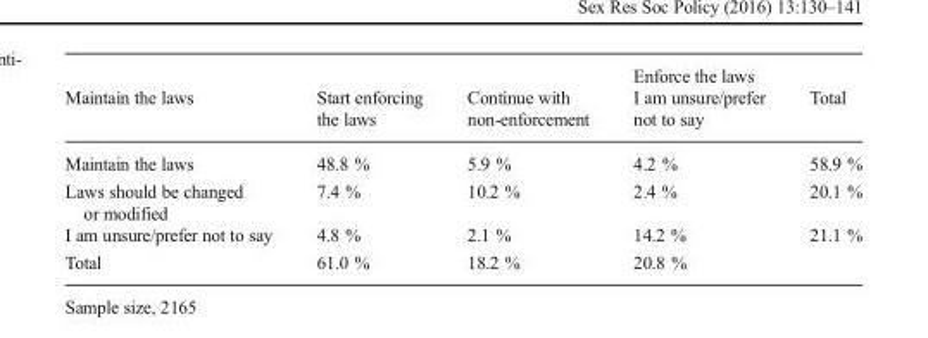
<table><thead><tr><td rowspan="2">Maintain the laws</td><td rowspan="2">Start enforcing the laws</td><td rowspan="2">Continue with non-enforcement</td><td rowspan="2">Enforce the laws I am unsure/prefer not to say</td><td rowspan="2">Total</td></tr><tr></tr></thead><tbody><tr><td>Maintain the laws</td><td>48.8 %</td><td>5.9 %</td><td>4.2 %</td><td>58.9 %</td></tr><tr><td>Laws should be changed or modified</td><td>7.4 %</td><td>10.2 %</td><td>2.4 %</td><td>20.1 %</td></tr><tr><td>I am unsure/prefer not to say</td><td>4.8 %</td><td>2.1 %</td><td>14.2 %</td><td>21.1 %</td></tr><tr><td>Total</td><td>61.0 %</td><td>18.2 %</td><td>20.8 %</td><td></td></tr></tbody></table>